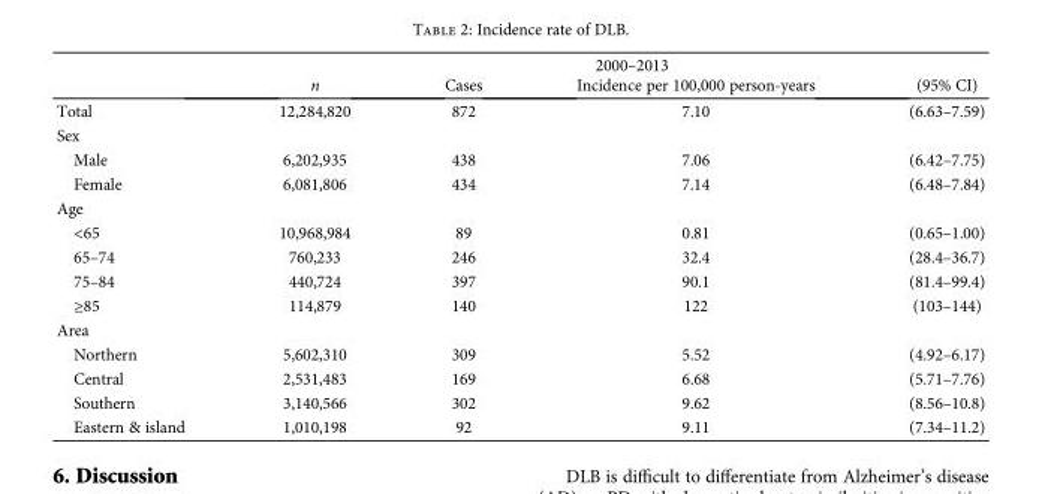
<table><thead><tr><td rowspan="2"></td><td colspan="4">2000–2013</td></tr><tr><td>n</td><td>Cases</td><td>Incidence per 100,000 person-years</td><td>(95% CI)</td></tr></thead><tbody><tr><td>Total</td><td>12,284,820</td><td>872</td><td>7.10</td><td>(6.63–7.59)</td></tr><tr><td colspan="5">Sex</td></tr><tr><td>Male</td><td>6,202,935</td><td>438</td><td>7.06</td><td>(6.42–7.75)</td></tr><tr><td>Female</td><td>6,081,806</td><td>434</td><td>7.14</td><td>(6.48–7.84)</td></tr><tr><td colspan="5">Age</td></tr><tr><td>&lt;65</td><td>10,968,984</td><td>89</td><td>0.81</td><td>(0.65–1.00)</td></tr><tr><td>65–74</td><td>760,233</td><td>246</td><td>32.4</td><td>(28.4–36.7)</td></tr><tr><td>75–84</td><td>440,724</td><td>397</td><td>90.1</td><td>(81.4–99.4)</td></tr><tr><td>≥85</td><td>114,879</td><td>140</td><td>122</td><td>(103–144)</td></tr><tr><td colspan="5">Area</td></tr><tr><td>Northern</td><td>5,602,310</td><td>309</td><td>5.52</td><td>(4.92–6.17)</td></tr><tr><td>Central</td><td>2,531,483</td><td>169</td><td>6.68</td><td>(5.71–7.76)</td></tr><tr><td>Southern</td><td>3,140,566</td><td>302</td><td>9.62</td><td>(8.56–10.8)</td></tr><tr><td>Eastern &amp; island</td><td>1,010,198</td><td>92</td><td>9.11</td><td>(7.34–11.2)</td></tr></tbody></table>